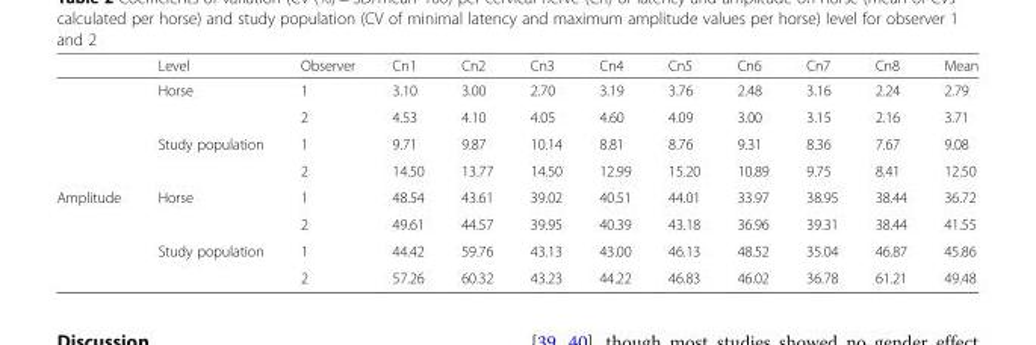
<table><thead><tr><td></td><td>Level</td><td>Observer</td><td>Cn1</td><td>Cn2</td><td>Cn3</td><td>Cn4</td><td>Cn5</td><td>Cn6</td><td>Cn7</td><td>Cn8</td><td>Mean</td></tr></thead><tbody><tr><td rowspan="4"></td><td rowspan="2">Horse</td><td>1</td><td>3.10</td><td>3.00</td><td>2.70</td><td>3.19</td><td>3.76</td><td>2.48</td><td>3.16</td><td>2.24</td><td>2.79</td></tr><tr><td>2</td><td>4.53</td><td>4.10</td><td>4.05</td><td>4.60</td><td>4.09</td><td>3.00</td><td>3.15</td><td>2.16</td><td>3.71</td></tr><tr><td rowspan="2">Study population</td><td>1</td><td>9.71</td><td>9.87</td><td>10.14</td><td>8.81</td><td>8.76</td><td>9.31</td><td>8.36</td><td>7.67</td><td>9.08</td></tr><tr><td>2</td><td>14.50</td><td>13.77</td><td>14.50</td><td>12.99</td><td>15.20</td><td>10.89</td><td>9.75</td><td>8.41</td><td>12.50</td></tr><tr><td rowspan="4">Amplitude</td><td rowspan="2">Horse</td><td>1</td><td>48.54</td><td>43.61</td><td>39.02</td><td>40.51</td><td>44.01</td><td>33.97</td><td>38.95</td><td>38.44</td><td>36.72</td></tr><tr><td>2</td><td>49.61</td><td>44.57</td><td>39.95</td><td>40.39</td><td>43.18</td><td>36.96</td><td>39.31</td><td>38.44</td><td>41.55</td></tr><tr><td rowspan="2">Study population</td><td>1</td><td>44.42</td><td>59.76</td><td>43.13</td><td>43.00</td><td>46.13</td><td>48.52</td><td>35.04</td><td>46.87</td><td>45.86</td></tr><tr><td>2</td><td>57.26</td><td>60.32</td><td>43.23</td><td>44.22</td><td>46.83</td><td>46.02</td><td>36.78</td><td>61.21</td><td>49.48</td></tr></tbody></table>